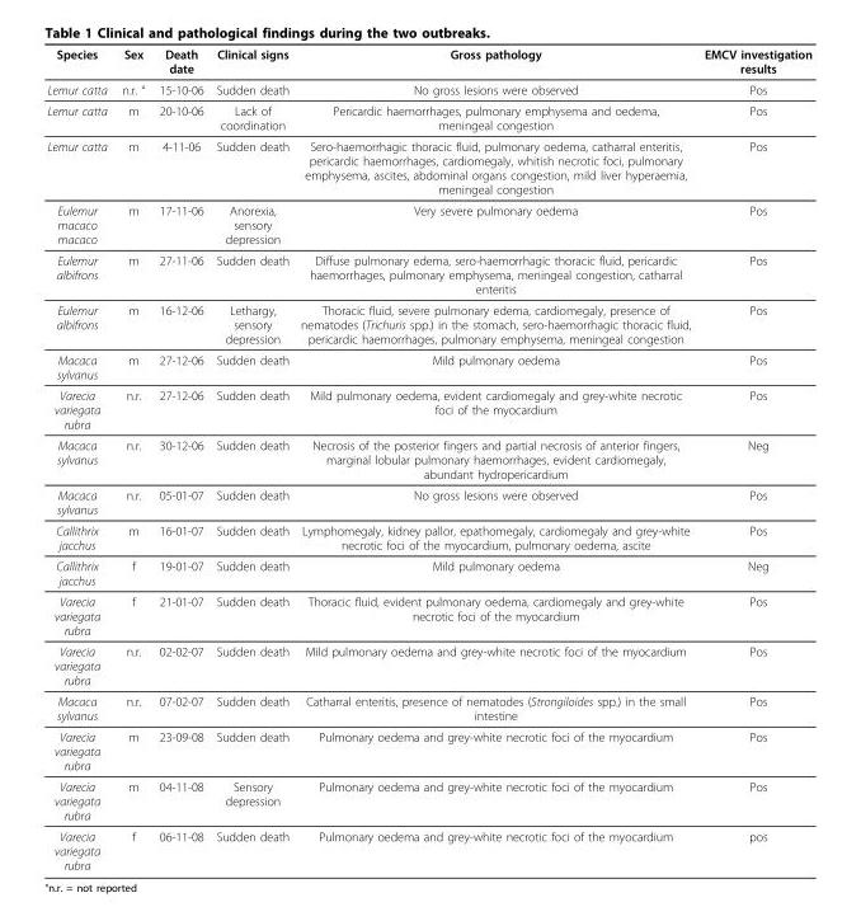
<table><thead><tr><td>Species</td><td>Sex</td><td>Death date</td><td>Clinical signs</td><td>Gross pathology</td><td>EMCV investigation results</td></tr></thead><tbody><tr><td>Lemur catta</td><td>n.r. °</td><td>15-10-06</td><td>Sudden death</td><td>No gross lesions were observed</td><td>Pos</td></tr><tr><td>Lemur catta</td><td>m</td><td>20-10-06</td><td>Lack of coordination</td><td>Pericardic haemorrhages, pulmonary emphysema and oedema, meningeal congestion</td><td>Pos</td></tr><tr><td>Lemur catta</td><td>m</td><td>4-11-06</td><td>Sudden death</td><td>Sero-haemorrhagic thoracic fluid, pulmonary oedema, catharral enteritis, pericardic haemorrhages, cardiomegaly, whitish necrotic foci, pulmonary emphysema, ascites, abdominal organs congestion, mild liver hyperaemia, meningeal congestion</td><td>Pos</td></tr><tr><td>Eulemur macaco macaco</td><td>m</td><td>17-11-06</td><td>Anorexia, sensory depression</td><td>Very severe pulmonary oedema</td><td>Pos</td></tr><tr><td>Eulemur albifrons</td><td>m</td><td>27-11-06</td><td>Sudden death</td><td>Diffuse pulmonary edema, sero-haemorrhagic thoracic fluid, pericardic haemorrhages, pulmonary emphysema, meningeal congestion, catharral enteritis</td><td>Pos</td></tr><tr><td>Eulemur albifrons</td><td>m</td><td>16-12-06</td><td>Lethargy, sensory depression</td><td>Thoracic fluid, severe pulmonary edema, cardiomegaly, presence of nematodes (Trichuris spp.) in the stomach, sero-haemorrhagic thoracic fluid, pericardic haemorrhages, pulmonary emphysema, meningeal congestion</td><td>Pos</td></tr><tr><td>Macaca sylvanus</td><td>m</td><td>27-12-06</td><td>Sudden death</td><td>Mild pulmonary oedema</td><td>Pos</td></tr><tr><td>Varecia variegata rubra</td><td>n.r.</td><td>27-12-06</td><td>Sudden death</td><td>Mild pulmonary oedema, evident cardiomegaly and grey-white necrotic foci of the myocardium</td><td>Pos</td></tr><tr><td>Macaca sylvanus</td><td>n.r.</td><td>30-12-06</td><td>Sudden death</td><td>Necrosis of the posterior fingers and partial necrosis of anterior fingers, marginal lobular pulmonary haemorrhages, evident cardiomegaly, abundant hydropericardium</td><td>Neg</td></tr><tr><td>Macaca sylvanus</td><td>n.r.</td><td>05-01-07</td><td>Sudden death</td><td>No gross lesions were observed</td><td>Pos</td></tr><tr><td>Callithrix jacchus</td><td>m</td><td>16-01-07</td><td>Sudden death</td><td>Lymphomegaly, kidney pallor, epathomegaly, cardiomegaly and grey-white necrotic foci of the myocardium, pulmonary oedema, ascite</td><td>Pos</td></tr><tr><td>Callithrix jacchus</td><td>f</td><td>19-01-07</td><td>Sudden death</td><td>Mild pulmonary oedema</td><td>Neg</td></tr><tr><td>Varecia variegata rubra</td><td>f</td><td>21-01-07</td><td>Sudden death</td><td>Thoracic fluid, evident pulmonary oedema, cardiomegaly and grey-white necrotic foci of the myocardium</td><td>Pos</td></tr><tr><td>Varecia variegata rubra</td><td>n.r.</td><td>02-02-07</td><td>Sudden death</td><td>Mild pulmonary oedema and grey-white necrotic foci of the myocardium</td><td>Pos</td></tr><tr><td>Macaca sylvanus</td><td>n.r.</td><td>07-02-07</td><td>Sudden death</td><td>Catharral enteritis, presence of nematodes (Strongiloides spp.) in the small intestine</td><td>Pos</td></tr><tr><td>Varecia variegata rubra</td><td>m</td><td>23-09-08</td><td>Sudden death</td><td>Pulmonary oedema and grey-white necrotic foci of the myocardium</td><td>Pos</td></tr><tr><td>Varecia variegata rubra</td><td>m</td><td>04-11-08</td><td>Sensory depression</td><td>Pulmonary oedema and grey-white necrotic foci of the myocardium</td><td>Pos</td></tr><tr><td>Varecia variegata rubra</td><td>f</td><td>06-11-08</td><td>Sudden death</td><td>Pulmonary oedema and grey-white necrotic foci of the myocardium</td><td>pos</td></tr></tbody></table>